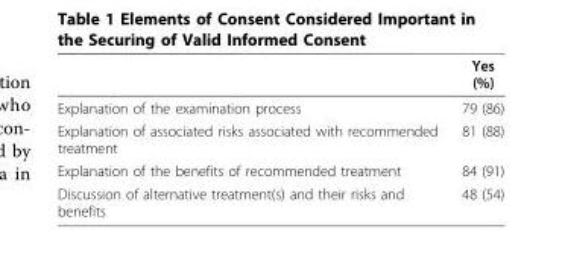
<table><thead><tr><td></td><td>Yes (%)</td></tr></thead><tbody><tr><td>Explanation of the examination process</td><td>79 (86)</td></tr><tr><td>Explanation of associated risks associated with recommended treatment</td><td>81 (88)</td></tr><tr><td>Explanation of the benefits of recommended treatment</td><td>84 (91)</td></tr><tr><td>Discussion of alternative treatment(s) and their risks and benefits</td><td>48 (54)</td></tr></tbody></table>